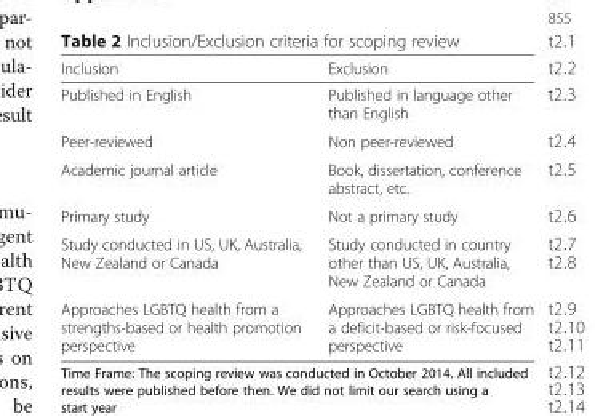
<table><thead><tr><td>Inclusion</td><td>Exclusion</td></tr></thead><tbody><tr><td>Published in English</td><td>Published in language other than English</td></tr><tr><td>Peer-reviewed</td><td>Non peer-reviewed</td></tr><tr><td>Academic journal article</td><td>Book, dissertation, conference abstract, etc.</td></tr><tr><td>Primary study</td><td>Not a primary study</td></tr><tr><td>Study conducted in US, UK, Australia, New Zealand or Canada</td><td>Study conducted in country other than US, UK, Australia, New Zealand or Canada</td></tr><tr><td>Approaches LGBTQ health from a strengths-based or health promotion perspective</td><td>Approaches LGBTQ health from a deficit-based or risk-focused perspective</td></tr></tbody></table>